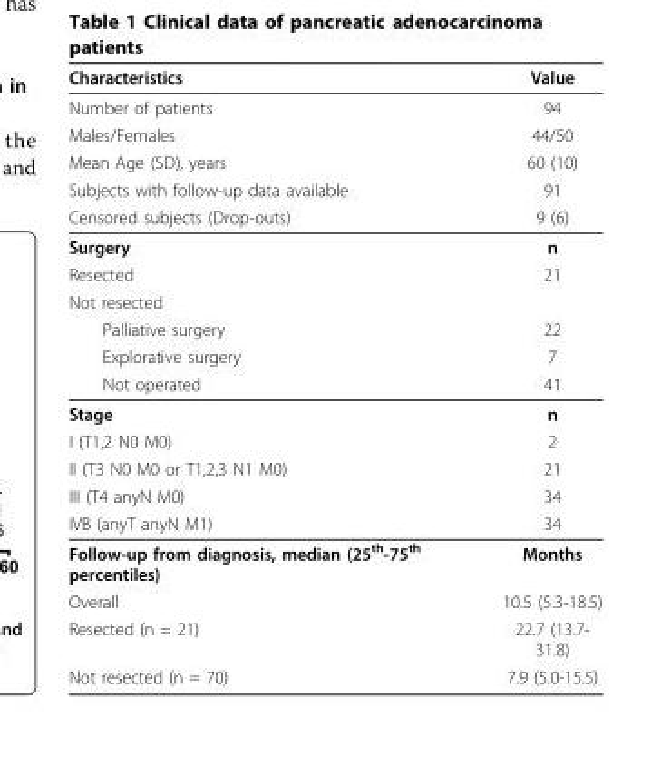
<table><thead><tr><td>Characteristics</td><td>Value</td></tr></thead><tbody><tr><td>Number of patients</td><td>94</td></tr><tr><td>Males/Females</td><td>44/50</td></tr><tr><td>Mean Age (SD), years</td><td>60 (10)</td></tr><tr><td>Subjects with follow-up data available</td><td>91</td></tr><tr><td>Censored subjects (Drop-outs)</td><td>9 (6)</td></tr><tr><td>Surgery</td><td>n</td></tr><tr><td>Resected</td><td>21</td></tr><tr><td colspan="2">Not resected</td></tr><tr><td>Palliative surgery</td><td>22</td></tr><tr><td>Explorative surgery</td><td>7</td></tr><tr><td>Not operated</td><td>41</td></tr><tr><td>Stage</td><td>n</td></tr><tr><td>I (T1,2 N0 M0)</td><td>2</td></tr><tr><td>II (T3 N0 M0 or T1,2,3 N1 M0)</td><td>21</td></tr><tr><td>III (T4 anyN M0)</td><td>34</td></tr><tr><td>IVB (anyT anyN M1)</td><td>34</td></tr><tr><td>Follow-up from diagnosis, median (25<sup>th</sup>-75<sup>th</sup> percentiles)</td><td>Months</td></tr><tr><td>Overall</td><td>10.5 (5.3-18.5)</td></tr><tr><td>Resected (n = 21)</td><td>22.7 (13.7- 31.8)</td></tr><tr><td>Not resected (n = 70)</td><td>7.9 (5.0-15.5)</td></tr></tbody></table>